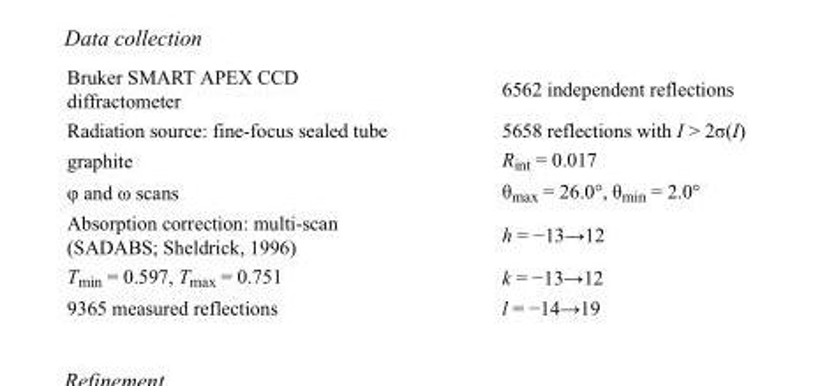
<table><tbody><tr><td>Bruker SMART APEX CCD diffractometer</td><td>6562 independent reflections</td></tr><tr><td>Radiation source: fine-focus sealed tube</td><td>5658 reflections with I &gt; 2σ(I)</td></tr><tr><td>graphite</td><td>R<sub>int</sub> = 0.017</td></tr><tr><td>φ and ω scans</td><td>θ<sub>max</sub> = 26.0°, θ<sub>min</sub> = 2.0°</td></tr><tr><td>Absorption correction: multi-scan (SADABS; Sheldrick, 1996)</td><td>h = −13→12</td></tr><tr><td>T<sub>min</sub> = 0.597, T<sub>max</sub> = 0.751</td><td>k = −13→12</td></tr><tr><td>9365 measured reflections</td><td>l = −14→19</td></tr></tbody></table>